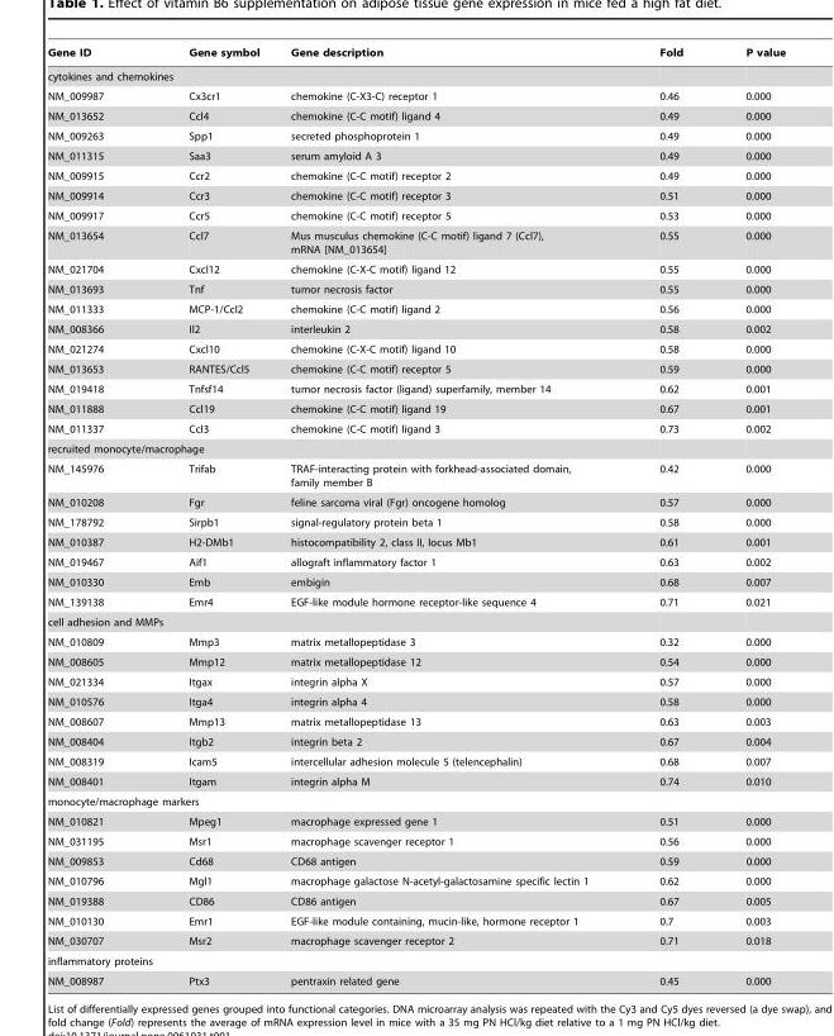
<table><thead><tr><td>Gene ID</td><td>Gene symbol</td><td>Gene description</td><td>Fold</td><td>P value</td></tr></thead><tbody><tr><td colspan="5">cytokines and chemokines</td></tr><tr><td>NM_009987</td><td>Cx3cr1</td><td>chemokine (C-X3-C) receptor 1</td><td>0.46</td><td>0.000</td></tr><tr><td>NM_013652</td><td>Ccl4</td><td>chemokine (C-C motif) ligand 4</td><td>0.49</td><td>0.000</td></tr><tr><td>NM_009263</td><td>Spp1</td><td>secreted phosphoprotein 1</td><td>0.49</td><td>0.000</td></tr><tr><td>NM_011315</td><td>Saa3</td><td>serum amyloid A 3</td><td>0.49</td><td>0.000</td></tr><tr><td>NM_009915</td><td>Ccr2</td><td>chemokine (C-C motif) receptor 2</td><td>0.49</td><td>0.000</td></tr><tr><td>NM_009914</td><td>Ccr3</td><td>chemokine (C-C motif) receptor 3</td><td>0.51</td><td>0.000</td></tr><tr><td>NM_009917</td><td>Ccr5</td><td>chemokine (C-C motif) receptor 5</td><td>0.53</td><td>0.000</td></tr><tr><td>NM_013654</td><td>Ccl7</td><td>Mus musculus chemokine (C-C motif) ligand 7 (Ccl7), mRNA [NM_013654]</td><td>0.55</td><td>0.000</td></tr><tr><td>NM_021704</td><td>Cxcl12</td><td>chemokine (C-X-C motif) ligand 12</td><td>0.55</td><td>0.000</td></tr><tr><td>NM_013693</td><td>Tnf</td><td>tumor necrosis factor</td><td>0.55</td><td>0.000</td></tr><tr><td>NM_011333</td><td>MCP-1/Ccl2</td><td>chemokine (C-C motif) ligand 2</td><td>0.56</td><td>0.000</td></tr><tr><td>NM_008366</td><td>Il2</td><td>interleukin 2</td><td>0.58</td><td>0.002</td></tr><tr><td>NM_021274</td><td>Cxcl10</td><td>chemokine (C-X-C motif) ligand 10</td><td>0.58</td><td>0.000</td></tr><tr><td>NM_013653</td><td>RANTES/Ccl5</td><td>chemokine (C-C motif) receptor 5</td><td>0.59</td><td>0.000</td></tr><tr><td>NM_019418</td><td>Tnfsf14</td><td>tumor necrosis factor (ligand) superfamily, member 14</td><td>0.62</td><td>0.001</td></tr><tr><td>NM_011888</td><td>Ccl19</td><td>chemokine (C-C motif) ligand 19</td><td>0.67</td><td>0.001</td></tr><tr><td>NM_011337</td><td>Ccl3</td><td>chemokine (C-C motif) ligand 3</td><td>0.73</td><td>0.002</td></tr><tr><td colspan="5">recruited monocyte/macrophage</td></tr><tr><td>NM_145976</td><td>Trifab</td><td>TRAF-interacting protein with forkhead-associated domain, family member B</td><td>0.42</td><td>0.000</td></tr><tr><td>NM_010208</td><td>Fgr</td><td>feline sarcoma viral (Fgr) oncogene homolog</td><td>0.57</td><td>0.000</td></tr><tr><td>NM_178792</td><td>Sirpb1</td><td>signal-regulatory protein beta 1</td><td>0.58</td><td>0.000</td></tr><tr><td>NM_010387</td><td>H2-DMb1</td><td>histocompatibility 2, class II, locus Mb1</td><td>0.61</td><td>0.001</td></tr><tr><td>NM_019467</td><td>Aif1</td><td>allograft inflammatory factor 1</td><td>0.63</td><td>0.002</td></tr><tr><td>NM_010330</td><td>Emb</td><td>embigin</td><td>0.68</td><td>0.007</td></tr><tr><td>NM_139138</td><td>Emr4</td><td>EGF-like module hormone receptor-like sequence 4</td><td>0.71</td><td>0.021</td></tr><tr><td colspan="5">cell adhesion and MMPs</td></tr><tr><td>NM_010809</td><td>Mmp3</td><td>matrix metallopeptidase 3</td><td>0.32</td><td>0.000</td></tr><tr><td>NM_008605</td><td>Mmp12</td><td>matrix metallopeptidase 12</td><td>0.54</td><td>0.000</td></tr><tr><td>NM_021334</td><td>Itgax</td><td>integrin alpha X</td><td>0.57</td><td>0.000</td></tr><tr><td>NM_010576</td><td>Itga4</td><td>integrin alpha 4</td><td>0.58</td><td>0.000</td></tr><tr><td>NM_008607</td><td>Mmp13</td><td>matrix metallopeptidase 13</td><td>0.63</td><td>0.003</td></tr><tr><td>NM_008404</td><td>Itgb2</td><td>integrin beta 2</td><td>0.67</td><td>0.004</td></tr><tr><td>NM_008319</td><td>Icam5</td><td>intercellular adhesion molecule 5 (telencephalin)</td><td>0.68</td><td>0.007</td></tr><tr><td>NM_008401</td><td>Itgam</td><td>integrin alpha M</td><td>0.74</td><td>0.010</td></tr><tr><td colspan="5">monocyte/macrophage markers</td></tr><tr><td>NM_010821</td><td>Mpeg1</td><td>macrophage expressed gene 1</td><td>0.51</td><td>0.000</td></tr><tr><td>NM_031195</td><td>Msr1</td><td>macrophage scavenger receptor 1</td><td>0.56</td><td>0.000</td></tr><tr><td>NM_009853</td><td>Cd68</td><td>CD68 antigen</td><td>0.59</td><td>0.000</td></tr><tr><td>NM_010796</td><td>Mgl1</td><td>macrophage galactose N-acetyl-galactosamine specific lectin 1</td><td>0.62</td><td>0.000</td></tr><tr><td>NM_019388</td><td>CD86</td><td>CD86 antigen</td><td>0.67</td><td>0.005</td></tr><tr><td>NM_010130</td><td>Emr1</td><td>EGF-like module containing, mucin-like, hormone receptor 1</td><td>0.7</td><td>0.003</td></tr><tr><td>NM_030707</td><td>Msr2</td><td>macrophage scavenger receptor 2</td><td>0.71</td><td>0.018</td></tr><tr><td colspan="5">inflammatory proteins</td></tr><tr><td>NM_008987</td><td>Ptx3</td><td>pentraxin related gene</td><td>0.45</td><td>0.000</td></tr></tbody></table>